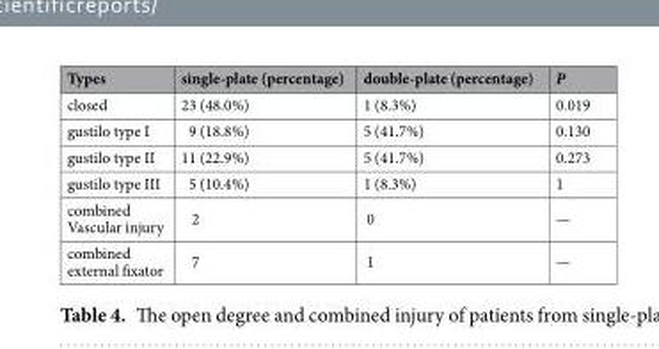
<table><thead><tr><td>Types</td><td>single-plate (percentage)</td><td>double-plate (percentage)</td><td>P</td></tr></thead><tbody><tr><td>closed</td><td>23 (48.0%)</td><td>1 (8.3%)</td><td>0.019</td></tr><tr><td>gustilo type I</td><td>9 (18.8%)</td><td>5 (41.7%)</td><td>0.130</td></tr><tr><td>gustilo type II</td><td>11 (22.9%)</td><td>5 (41.7%)</td><td>0.273</td></tr><tr><td>gustilo type III</td><td>5 (10.4%)</td><td>1 (8.3%)</td><td>1</td></tr><tr><td>combined Vascular injury</td><td>2</td><td>0</td><td>—</td></tr><tr><td>combined external fixator</td><td>7</td><td>1</td><td>—</td></tr></tbody></table>